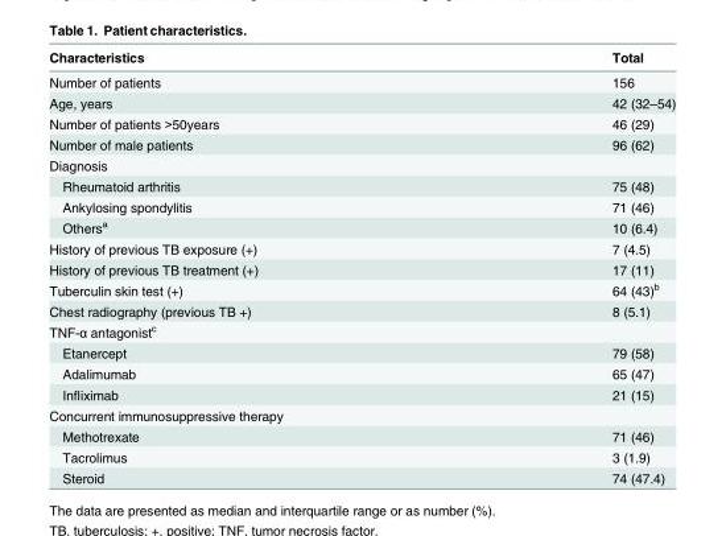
<table><thead><tr><td>Characteristics</td><td>Total</td></tr></thead><tbody><tr><td>Number of patients</td><td>156</td></tr><tr><td>Age, years</td><td>42 (32–54)</td></tr><tr><td>Number of patients &gt;50years</td><td>46 (29)</td></tr><tr><td>Number of male patients</td><td>96 (62)</td></tr><tr><td colspan="2">Diagnosis</td></tr><tr><td>Rheumatoid arthritis</td><td>75 (48)</td></tr><tr><td>Ankylosing spondylitis</td><td>71 (46)</td></tr><tr><td>Others<sup>a</sup></td><td>10 (6.4)</td></tr><tr><td>History of previous TB exposure (+)</td><td>7 (4.5)</td></tr><tr><td>History of previous TB treatment (+)</td><td>17 (11)</td></tr><tr><td>Tuberculin skin test (+)</td><td>64 (43)<sup>b</sup></td></tr><tr><td>Chest radiography (previous TB +)</td><td>8 (5.1)</td></tr><tr><td colspan="2">TNF-α antagonist<sup>c</sup></td></tr><tr><td>Etanercept</td><td>79 (58)</td></tr><tr><td>Adalimumab</td><td>65 (47)</td></tr><tr><td>Infliximab</td><td>21 (15)</td></tr><tr><td colspan="2">Concurrent immunosuppressive therapy</td></tr><tr><td>Methotrexate</td><td>71 (46)</td></tr><tr><td>Tacrolimus</td><td>3 (1.9)</td></tr><tr><td>Steroid</td><td>74 (47.4)</td></tr></tbody></table>